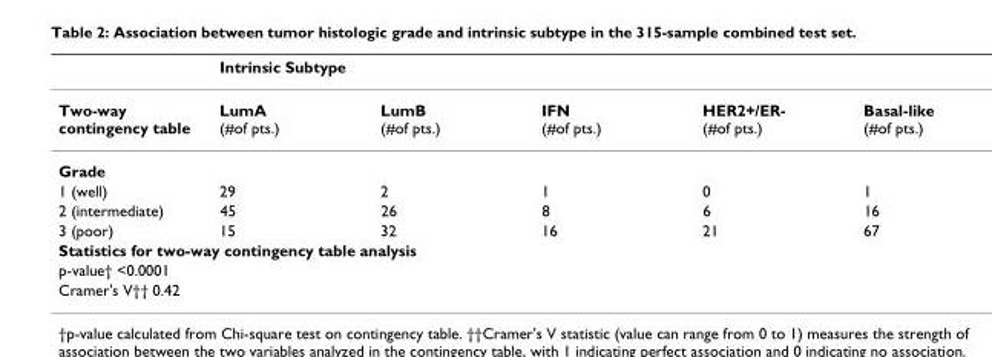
<table><thead><tr><td rowspan="2">Two-way contingency table</td><td colspan="5">Intrinsic Subtype</td></tr><tr><td>LumA (#of pts.)</td><td>LumB (#of pts.)</td><td>IFN (#of pts.)</td><td>HER2+/ER- (#of pts.)</td><td>Basal-like (#of pts.)</td></tr></thead><tbody><tr><td colspan="6">Grade</td></tr><tr><td>1 (well)</td><td>29</td><td>2</td><td>1</td><td>0</td><td>1</td></tr><tr><td>2 (intermediate)</td><td>45</td><td>26</td><td>8</td><td>6</td><td>16</td></tr><tr><td>3 (poor)</td><td>15</td><td>32</td><td>16</td><td>21</td><td>67</td></tr><tr><td colspan="6">Statistics for two-way contingency table analysis</td></tr><tr><td colspan="6">p-value† &lt;0.0001</td></tr><tr><td colspan="6">Cramer&#x27;s V†† 0.42</td></tr></tbody></table>